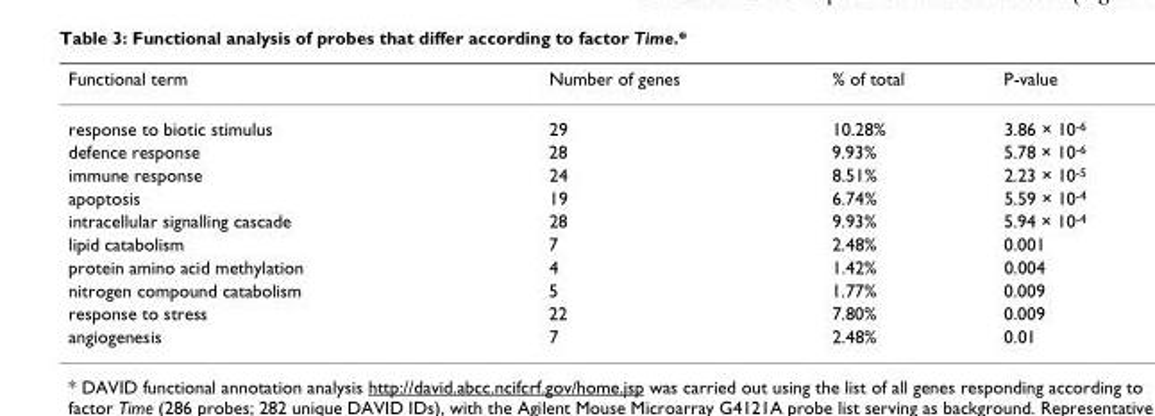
<table><thead><tr><td>Functional term</td><td>Number of genes</td><td>% of total</td><td>P-value</td></tr></thead><tbody><tr><td>response to biotic stimulus</td><td>29</td><td>10.28%</td><td>3.86 × 10<sup>-6</sup></td></tr><tr><td>defence response</td><td>28</td><td>9.93%</td><td>5.78 × 10<sup>-6</sup></td></tr><tr><td>immune response</td><td>24</td><td>8.51%</td><td>2.23 × 10<sup>-5</sup></td></tr><tr><td>apoptosis</td><td>19</td><td>6.74%</td><td>5.59 × 10<sup>-4</sup></td></tr><tr><td>intracellular signalling cascade</td><td>28</td><td>9.93%</td><td>5.94 × 10<sup>-4</sup></td></tr><tr><td>lipid catabolism</td><td>7</td><td>2.48%</td><td>0.001</td></tr><tr><td>protein amino acid methylation</td><td>4</td><td>1.42%</td><td>0.004</td></tr><tr><td>nitrogen compound catabolism</td><td>5</td><td>1.77%</td><td>0.009</td></tr><tr><td>response to stress</td><td>22</td><td>7.80%</td><td>0.009</td></tr><tr><td>angiogenesis</td><td>7</td><td>2.48%</td><td>0.01</td></tr></tbody></table>